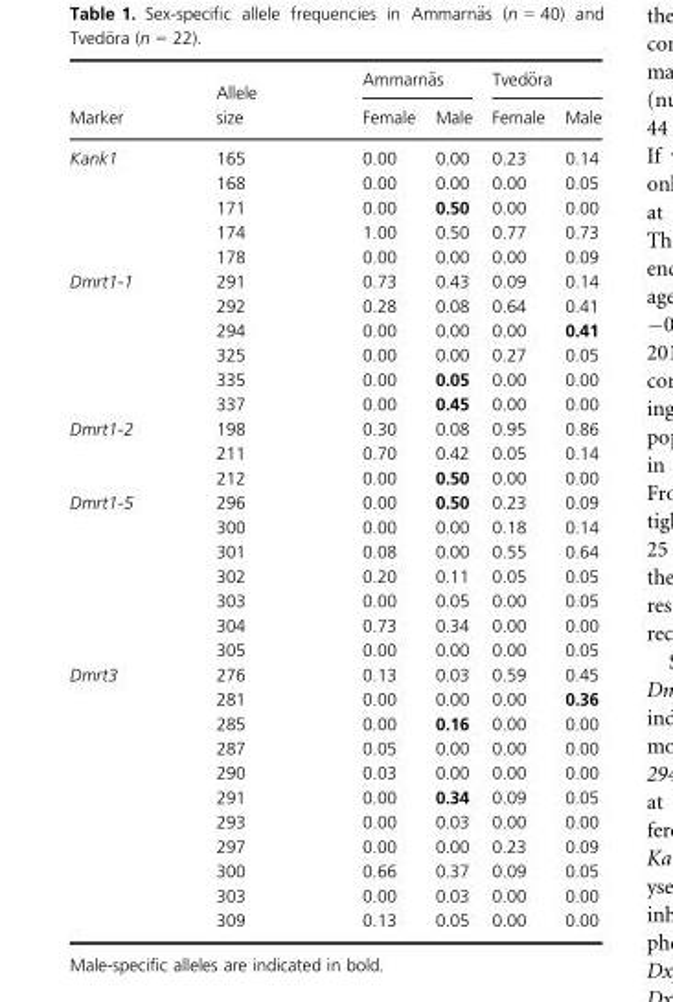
<table><thead><tr><td rowspan="2">Marker</td><td rowspan="2">Allele size</td><td colspan="2">Ammarn€as</td><td colspan="2">Tved€ora</td></tr><tr><td>Female</td><td>Male</td><td>Female</td><td>Male</td></tr></thead><tbody><tr><td rowspan="5">Kank1</td><td>165</td><td>0.00</td><td>0.00</td><td>0.23</td><td>0.14</td></tr><tr><td>168</td><td>0.00</td><td>0.00</td><td>0.00</td><td>0.05</td></tr><tr><td>171</td><td>0.00</td><td>0.50</td><td>0.00</td><td>0.00</td></tr><tr><td>174</td><td>1.00</td><td>0.50</td><td>0.77</td><td>0.73</td></tr><tr><td>178</td><td>0.00</td><td>0.00</td><td>0.00</td><td>0.09</td></tr><tr><td rowspan="6">Dmrt1-1</td><td>291</td><td>0.73</td><td>0.43</td><td>0.09</td><td>0.14</td></tr><tr><td>292</td><td>0.28</td><td>0.08</td><td>0.64</td><td>0.41</td></tr><tr><td>294</td><td>0.00</td><td>0.00</td><td>0.00</td><td>0.41</td></tr><tr><td>325</td><td>0.00</td><td>0.00</td><td>0.27</td><td>0.05</td></tr><tr><td>335</td><td>0.00</td><td>0.05</td><td>0.00</td><td>0.00</td></tr><tr><td>337</td><td>0.00</td><td>0.45</td><td>0.00</td><td>0.00</td></tr><tr><td rowspan="3">Dmrt1-2</td><td>198</td><td>0.30</td><td>0.08</td><td>0.95</td><td>0.86</td></tr><tr><td>211</td><td>0.70</td><td>0.42</td><td>0.05</td><td>0.14</td></tr><tr><td>212</td><td>0.00</td><td>0.50</td><td>0.00</td><td>0.00</td></tr><tr><td rowspan="7">Dmrt1-5</td><td>296</td><td>0.00</td><td>0.50</td><td>0.23</td><td>0.09</td></tr><tr><td>300</td><td>0.00</td><td>0.00</td><td>0.18</td><td>0.14</td></tr><tr><td>301</td><td>0.08</td><td>0.00</td><td>0.55</td><td>0.64</td></tr><tr><td>302</td><td>0.20</td><td>0.11</td><td>0.05</td><td>0.05</td></tr><tr><td>303</td><td>0.00</td><td>0.05</td><td>0.00</td><td>0.05</td></tr><tr><td>304</td><td>0.73</td><td>0.34</td><td>0.00</td><td>0.00</td></tr><tr><td>305</td><td>0.00</td><td>0.00</td><td>0.00</td><td>0.05</td></tr><tr><td rowspan="11">Dmrt3</td><td>276</td><td>0.13</td><td>0.03</td><td>0.59</td><td>0.45</td></tr><tr><td>281</td><td>0.00</td><td>0.00</td><td>0.00</td><td>0.36</td></tr><tr><td>285</td><td>0.00</td><td>0.16</td><td>0.00</td><td>0.00</td></tr><tr><td>287</td><td>0.05</td><td>0.00</td><td>0.00</td><td>0.00</td></tr><tr><td>290</td><td>0.03</td><td>0.00</td><td>0.00</td><td>0.00</td></tr><tr><td>291</td><td>0.00</td><td>0.34</td><td>0.09</td><td>0.05</td></tr><tr><td>293</td><td>0.00</td><td>0.03</td><td>0.00</td><td>0.00</td></tr><tr><td>297</td><td>0.00</td><td>0.00</td><td>0.23</td><td>0.09</td></tr><tr><td>300</td><td>0.66</td><td>0.37</td><td>0.09</td><td>0.05</td></tr><tr><td>303</td><td>0.00</td><td>0.03</td><td>0.00</td><td>0.00</td></tr><tr><td>309</td><td>0.13</td><td>0.05</td><td>0.00</td><td>0.00</td></tr></tbody></table>